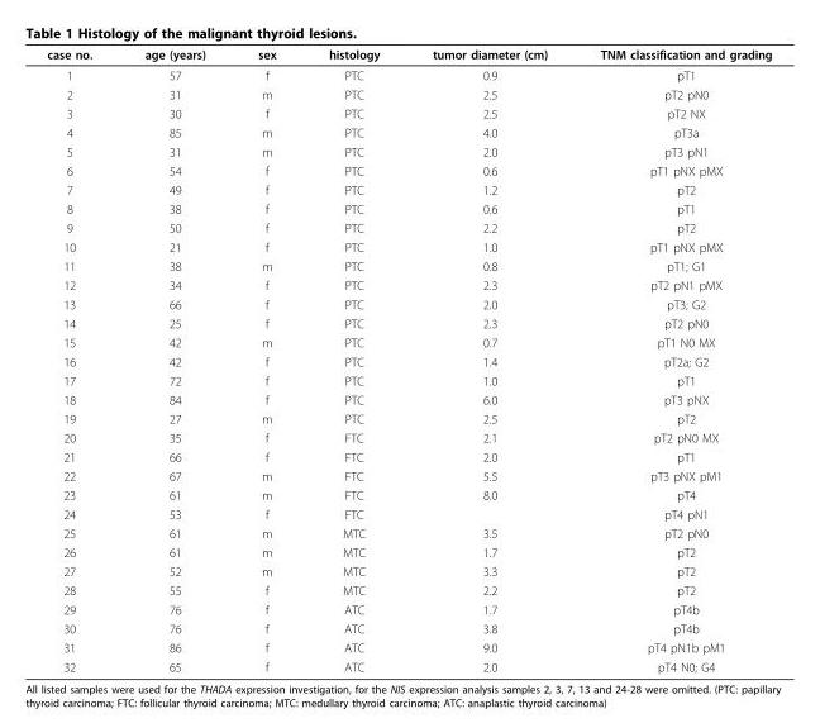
<table><thead><tr><td>case no.</td><td>age (years)</td><td>sex</td><td>histology</td><td>tumor diameter (cm)</td><td>TNM classification and grading</td></tr></thead><tbody><tr><td>1</td><td>57</td><td>f</td><td>PTC</td><td>0.9</td><td>pT1</td></tr><tr><td>2</td><td>31</td><td>m</td><td>PTC</td><td>2.5</td><td>pT2 pN0</td></tr><tr><td>3</td><td>30</td><td>f</td><td>PTC</td><td>2.5</td><td>pT2 NX</td></tr><tr><td>4</td><td>85</td><td>m</td><td>PTC</td><td>4.0</td><td>pT3a</td></tr><tr><td>5</td><td>31</td><td>m</td><td>PTC</td><td>2.0</td><td>pT3 pN1</td></tr><tr><td>6</td><td>54</td><td>f</td><td>PTC</td><td>0.6</td><td>pT1 pNX pMX</td></tr><tr><td>7</td><td>49</td><td>f</td><td>PTC</td><td>1.2</td><td>pT2</td></tr><tr><td>8</td><td>38</td><td>f</td><td>PTC</td><td>0.6</td><td>pT1</td></tr><tr><td>9</td><td>50</td><td>f</td><td>PTC</td><td>2.2</td><td>pT2</td></tr><tr><td>10</td><td>21</td><td>f</td><td>PTC</td><td>1.0</td><td>pT1 pNX pMX</td></tr><tr><td>11</td><td>38</td><td>m</td><td>PTC</td><td>0.8</td><td>pT1; G1</td></tr><tr><td>12</td><td>34</td><td>f</td><td>PTC</td><td>2.3</td><td>pT2 pN1 pMX</td></tr><tr><td>13</td><td>66</td><td>f</td><td>PTC</td><td>2.0</td><td>pT3; G2</td></tr><tr><td>14</td><td>25</td><td>f</td><td>PTC</td><td>2.3</td><td>pT2 pN0</td></tr><tr><td>15</td><td>42</td><td>m</td><td>PTC</td><td>0.7</td><td>pT1 N0 MX</td></tr><tr><td>16</td><td>42</td><td>f</td><td>PTC</td><td>1.4</td><td>pT2a; G2</td></tr><tr><td>17</td><td>72</td><td>f</td><td>PTC</td><td>1.0</td><td>pT1</td></tr><tr><td>18</td><td>84</td><td>f</td><td>PTC</td><td>6.0</td><td>pT3 pNX</td></tr><tr><td>19</td><td>27</td><td>m</td><td>PTC</td><td>2.5</td><td>pT2</td></tr><tr><td>20</td><td>35</td><td>f</td><td>FTC</td><td>2.1</td><td>pT2 pN0 MX</td></tr><tr><td>21</td><td>66</td><td>f</td><td>FTC</td><td>2.0</td><td>pT1</td></tr><tr><td>22</td><td>67</td><td>m</td><td>FTC</td><td>5.5</td><td>pT3 pNX pM1</td></tr><tr><td>23</td><td>61</td><td>m</td><td>FTC</td><td>8.0</td><td>pT4</td></tr><tr><td>24</td><td>53</td><td>f</td><td>FTC</td><td></td><td>pT4 pN1</td></tr><tr><td>25</td><td>61</td><td>m</td><td>MTC</td><td>3.5</td><td>pT2 pN0</td></tr><tr><td>26</td><td>61</td><td>m</td><td>MTC</td><td>1.7</td><td>pT2</td></tr><tr><td>27</td><td>52</td><td>m</td><td>MTC</td><td>3.3</td><td>pT2</td></tr><tr><td>28</td><td>55</td><td>f</td><td>MTC</td><td>2.2</td><td>pT2</td></tr><tr><td>29</td><td>76</td><td>f</td><td>ATC</td><td>1.7</td><td>pT4b</td></tr><tr><td>30</td><td>76</td><td>f</td><td>ATC</td><td>3.8</td><td>pT4b</td></tr><tr><td>31</td><td>86</td><td>f</td><td>ATC</td><td>9.0</td><td>pT4 pN1b pM1</td></tr><tr><td>32</td><td>65</td><td>f</td><td>ATC</td><td>2.0</td><td>pT4 N0; G4</td></tr></tbody></table>